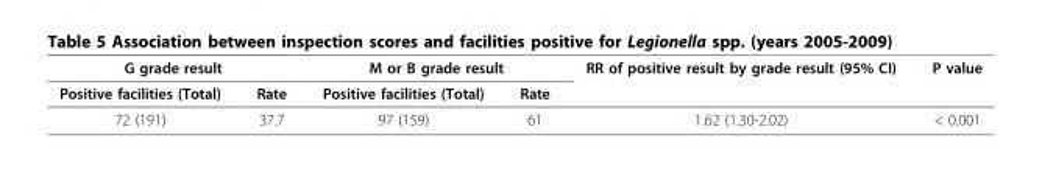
<table><thead><tr><td colspan="2">G grade result</td><td colspan="2">M or B grade result</td><td rowspan="2">RR of positive result by grade result (95% CI)</td><td rowspan="2">P value</td></tr><tr><td>Positive facilities (Total)</td><td>Rate</td><td>Positive facilities (Total)</td><td>Rate</td></tr></thead><tbody><tr><td>72 (191)</td><td>37.7</td><td>97 (159)</td><td>61</td><td>1.62 (1.30-2.02)</td><td>&lt; 0.001</td></tr></tbody></table>